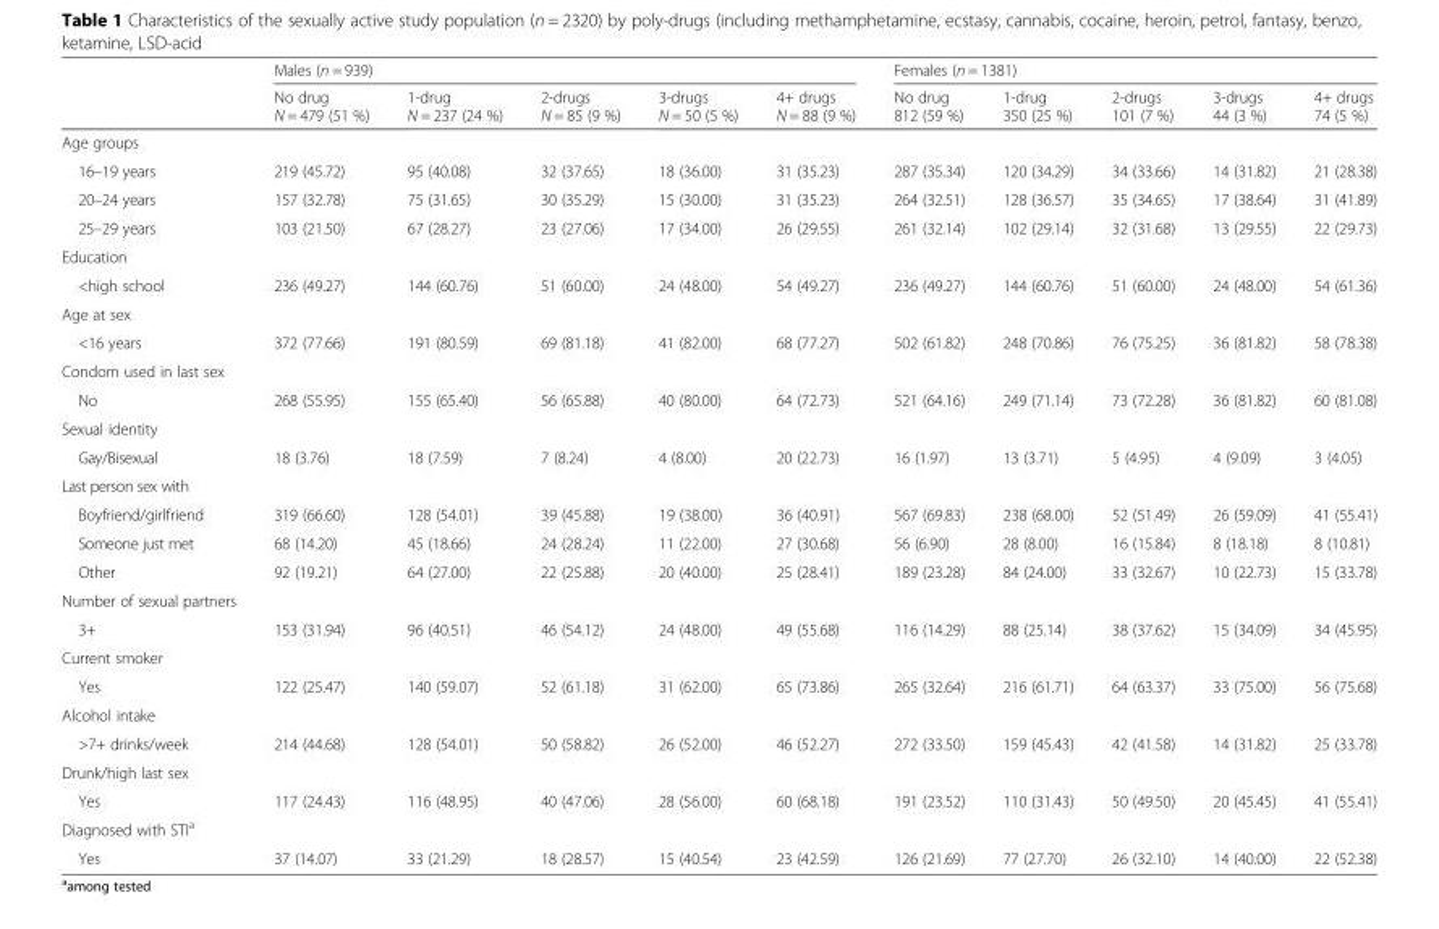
<table><thead><tr><td rowspan="2"></td><td colspan="5">Males (n = 939)</td><td colspan="5">Females (n = 1381)</td></tr><tr><td>No drug N = 479 (51 %)</td><td>1-drug N = 237 (24 %)</td><td>2-drugs N = 85 (9 %)</td><td>3-drugs N = 50 (5 %)</td><td>4+ drugs N = 88 (9 %)</td><td>No drug 812 (59 %)</td><td>1-drug 350 (25 %)</td><td>2-drugs 101 (7 %)</td><td>3-drugs 44 (3 %)</td><td>4+ drugs 74 (5 %)</td></tr></thead><tbody><tr><td colspan="11">Age groups</td></tr><tr><td>16–19 years</td><td>219 (45.72)</td><td>95 (40.08)</td><td>32 (37.65)</td><td>18 (36.00)</td><td>31 (35.23)</td><td>287 (35.34)</td><td>120 (34.29)</td><td>34 (33.66)</td><td>14 (31.82)</td><td>21 (28.38)</td></tr><tr><td>20–24 years</td><td>157 (32.78)</td><td>75 (31.65)</td><td>30 (35.29)</td><td>15 (30.00)</td><td>31 (35.23)</td><td>264 (32.51)</td><td>128 (36.57)</td><td>35 (34.65)</td><td>17 (38.64)</td><td>31 (41.89)</td></tr><tr><td>25–29 years</td><td>103 (21.50)</td><td>67 (28.27)</td><td>23 (27.06)</td><td>17 (34.00)</td><td>26 (29.55)</td><td>261 (32.14)</td><td>102 (29.14)</td><td>32 (31.68)</td><td>13 (29.55)</td><td>22 (29.73)</td></tr><tr><td colspan="11">Education</td></tr><tr><td>&lt;high school</td><td>236 (49.27)</td><td>144 (60.76)</td><td>51 (60.00)</td><td>24 (48.00)</td><td>54 (49.27)</td><td>236 (49.27)</td><td>144 (60.76)</td><td>51 (60.00)</td><td>24 (48.00)</td><td>54 (61.36)</td></tr><tr><td colspan="11">Age at sex</td></tr><tr><td>&lt;16 years</td><td>372 (77.66)</td><td>191 (80.59)</td><td>69 (81.18)</td><td>41 (82.00)</td><td>68 (77.27)</td><td>502 (61.82)</td><td>248 (70.86)</td><td>76 (75.25)</td><td>36 (81.82)</td><td>58 (78.38)</td></tr><tr><td colspan="11">Condom used in last sex</td></tr><tr><td>No</td><td>268 (55.95)</td><td>155 (65.40)</td><td>56 (65.88)</td><td>40 (80.00)</td><td>64 (72.73)</td><td>521 (64.16)</td><td>249 (71.14)</td><td>73 (72.28)</td><td>36 (81.82)</td><td>60 (81.08)</td></tr><tr><td colspan="11">Sexual identity</td></tr><tr><td>Gay/Bisexual</td><td>18 (3.76)</td><td>18 (7.59)</td><td>7 (8.24)</td><td>4 (8.00)</td><td>20 (22.73)</td><td>16 (1.97)</td><td>13 (3.71)</td><td>5 (4.95)</td><td>4 (9.09)</td><td>3 (4.05)</td></tr><tr><td colspan="11">Last person sex with</td></tr><tr><td>Boyfriend/girlfriend</td><td>319 (66.60)</td><td>128 (54.01)</td><td>39 (45.88)</td><td>19 (38.00)</td><td>36 (40.91)</td><td>567 (69.83)</td><td>238 (68.00)</td><td>52 (51.49)</td><td>26 (59.09)</td><td>41 (55.41)</td></tr><tr><td>Someone just met</td><td>68 (14.20)</td><td>45 (18.66)</td><td>24 (28.24)</td><td>11 (22.00)</td><td>27 (30.68)</td><td>56 (6.90)</td><td>28 (8.00)</td><td>16 (15.84)</td><td>8 (18.18)</td><td>8 (10.81)</td></tr><tr><td>Other</td><td>92 (19.21)</td><td>64 (27.00)</td><td>22 (25.88)</td><td>20 (40.00)</td><td>25 (28.41)</td><td>189 (23.28)</td><td>84 (24.00)</td><td>33 (32.67)</td><td>10 (22.73)</td><td>15 (33.78)</td></tr><tr><td colspan="11">Number of sexual partners</td></tr><tr><td>3+</td><td>153 (31.94)</td><td>96 (40.51)</td><td>46 (54.12)</td><td>24 (48.00)</td><td>49 (55.68)</td><td>116 (14.29)</td><td>88 (25.14)</td><td>38 (37.62)</td><td>15 (34.09)</td><td>34 (45.95)</td></tr><tr><td colspan="11">Current smoker</td></tr><tr><td>Yes</td><td>122 (25.47)</td><td>140 (59.07)</td><td>52 (61.18)</td><td>31 (62.00)</td><td>65 (73.86)</td><td>265 (32.64)</td><td>216 (61.71)</td><td>64 (63.37)</td><td>33 (75.00)</td><td>56 (75.68)</td></tr><tr><td colspan="11">Alcohol intake</td></tr><tr><td>&gt;7+ drinks/week</td><td>214 (44.68)</td><td>128 (54.01)</td><td>50 (58.82)</td><td>26 (52.00)</td><td>46 (52.27)</td><td>272 (33.50)</td><td>159 (45.43)</td><td>42 (41.58)</td><td>14 (31.82)</td><td>25 (33.78)</td></tr><tr><td colspan="11">Drunk/high last sex</td></tr><tr><td>Yes</td><td>117 (24.43)</td><td>116 (48.95)</td><td>40 (47.06)</td><td>28 (56.00)</td><td>60 (68.18)</td><td>191 (23.52)</td><td>110 (31.43)</td><td>50 (49.50)</td><td>20 (45.45)</td><td>41 (55.41)</td></tr><tr><td colspan="11">Diagnosed with STI<sup>a</sup></td></tr><tr><td>Yes</td><td>37 (14.07)</td><td>33 (21.29)</td><td>18 (28.57)</td><td>15 (40.54)</td><td>23 (42.59)</td><td>126 (21.69)</td><td>77 (27.70)</td><td>26 (32.10)</td><td>14 (40.00)</td><td>22 (52.38)</td></tr></tbody></table>